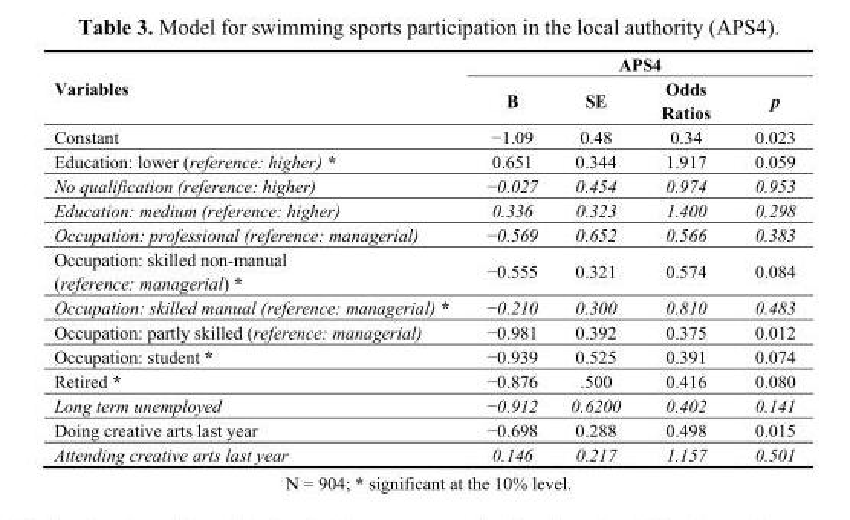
<table><thead><tr><td rowspan="2">Variables</td><td colspan="4">APS4</td></tr><tr><td>B</td><td>SE</td><td>Odds Ratios</td><td>p</td></tr></thead><tbody><tr><td>Constant</td><td>−1.09</td><td>0.48</td><td>0.34</td><td>0.023</td></tr><tr><td>Education: lower (reference: higher) *</td><td>0.651</td><td>0.344</td><td>1.917</td><td>0.059</td></tr><tr><td>No qualification (reference: higher)</td><td>−0.027</td><td>0.454</td><td>0.974</td><td>0.953</td></tr><tr><td>Education: medium (reference: higher)</td><td>0.336</td><td>0.323</td><td>1.400</td><td>0.298</td></tr><tr><td>Occupation: professional (reference: managerial)</td><td>−0.569</td><td>0.652</td><td>0.566</td><td>0.383</td></tr><tr><td>Occupation: skilled non-manual (reference: managerial) *</td><td>−0.555</td><td>0.321</td><td>0.574</td><td>0.084</td></tr><tr><td>Occupation: skilled manual (reference: managerial) *</td><td>−0.210</td><td>0.300</td><td>0.810</td><td>0.483</td></tr><tr><td>Occupation: partly skilled (reference: managerial)</td><td>−0.981</td><td>0.392</td><td>0.375</td><td>0.012</td></tr><tr><td>Occupation: student *</td><td>−0.939</td><td>0.525</td><td>0.391</td><td>0.074</td></tr><tr><td>Retired *</td><td>−0.876</td><td>.500</td><td>0.416</td><td>0.080</td></tr><tr><td>Long term unemployed</td><td>−0.912</td><td>0.6200</td><td>0.402</td><td>0.141</td></tr><tr><td>Doing creative arts last year</td><td>−0.698</td><td>0.288</td><td>0.498</td><td>0.015</td></tr><tr><td>Attending creative arts last year</td><td>0.146</td><td>0.217</td><td>1.157</td><td>0.501</td></tr></tbody></table>